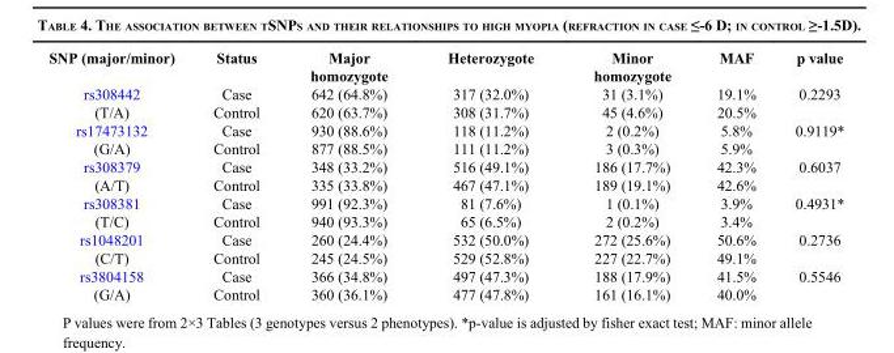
<table><thead><tr><td>SNP (major/minor)</td><td>Status</td><td>Major homozygote</td><td>Heterozygote</td><td>Minor homozygote</td><td>MAF</td><td>p value</td></tr></thead><tbody><tr><td>rs308442</td><td>Case</td><td>642 (64.8%)</td><td>317 (32.0%)</td><td>31 (3.1%)</td><td>19.1%</td><td>0.2293</td></tr><tr><td>(T/A)</td><td>Control</td><td>620 (63.7%)</td><td>308 (31.7%)</td><td>45 (4.6%)</td><td>20.5%</td><td></td></tr><tr><td>rs17473132</td><td>Case</td><td>930 (88.6%)</td><td>118 (11.2%)</td><td>2 (0.2%)</td><td>5.8%</td><td>0.9119*</td></tr><tr><td>(G/A)</td><td>Control</td><td>877 (88.5%)</td><td>111 (11.2%)</td><td>3 (0.3%)</td><td>5.9%</td><td></td></tr><tr><td>rs308379</td><td>Case</td><td>348 (33.2%)</td><td>516 (49.1%)</td><td>186 (17.7%)</td><td>42.3%</td><td>0.6037</td></tr><tr><td>(A/T)</td><td>Control</td><td>335 (33.8%)</td><td>467 (47.1%)</td><td>189 (19.1%)</td><td>42.6%</td><td></td></tr><tr><td>rs308381</td><td>Case</td><td>991 (92.3%)</td><td>81 (7.6%)</td><td>1 (0.1%)</td><td>3.9%</td><td>0.4931*</td></tr><tr><td>(T/C)</td><td>Control</td><td>940 (93.3%)</td><td>65 (6.5%)</td><td>2 (0.2%)</td><td>3.4%</td><td></td></tr><tr><td>rs1048201</td><td>Case</td><td>260 (24.4%)</td><td>532 (50.0%)</td><td>272 (25.6%)</td><td>50.6%</td><td>0.2736</td></tr><tr><td>(C/T)</td><td>Control</td><td>245 (24.5%)</td><td>529 (52.8%)</td><td>227 (22.7%)</td><td>49.1%</td><td></td></tr><tr><td>rs3804158</td><td>Case</td><td>366 (34.8%)</td><td>497 (47.3%)</td><td>188 (17.9%)</td><td>41.5%</td><td>0.5546</td></tr><tr><td>(G/A)</td><td>Control</td><td>360 (36.1%)</td><td>477 (47.8%)</td><td>161 (16.1%)</td><td>40.0%</td><td></td></tr></tbody></table>